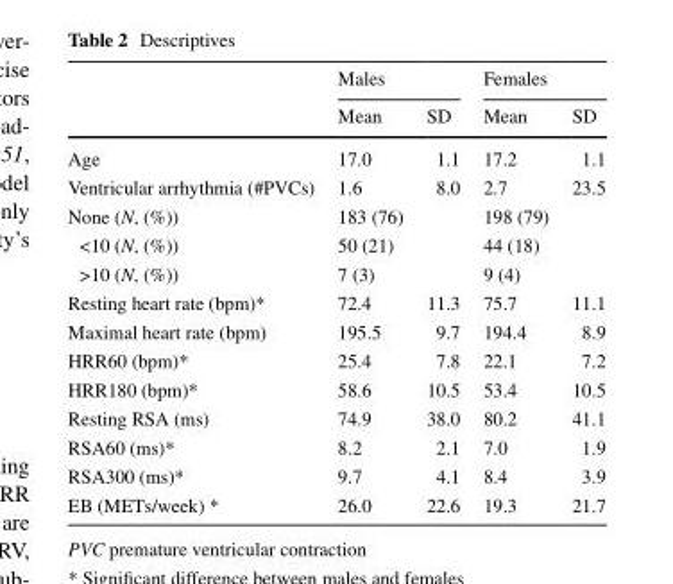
<table><thead><tr><td rowspan="2"></td><td colspan="2">Males</td><td colspan="2">Females</td></tr><tr><td>Mean</td><td>SD</td><td>Mean</td><td>SD</td></tr></thead><tbody><tr><td>Age</td><td>17.0</td><td>1.1</td><td>17.2</td><td>1.1</td></tr><tr><td>Ventricular arrhythmia (#PVCs)</td><td>1.6</td><td>8.0</td><td>2.7</td><td>23.5</td></tr><tr><td>None (N, (%))</td><td>183 (76)</td><td></td><td>198 (79)</td><td></td></tr><tr><td>&lt;10 (N, (%))</td><td>50 (21)</td><td></td><td>44 (18)</td><td></td></tr><tr><td>&gt;10 (N, (%))</td><td>7 (3)</td><td></td><td>9 (4)</td><td></td></tr><tr><td>Resting heart rate (bpm)*</td><td>72.4</td><td>11.3</td><td>75.7</td><td>11.1</td></tr><tr><td>Maximal heart rate (bpm)</td><td>195.5</td><td>9.7</td><td>194.4</td><td>8.9</td></tr><tr><td>HRR60 (bpm)*</td><td>25.4</td><td>7.8</td><td>22.1</td><td>7.2</td></tr><tr><td>HRR180 (bpm)*</td><td>58.6</td><td>10.5</td><td>53.4</td><td>10.5</td></tr><tr><td>Resting RSA (ms)</td><td>74.9</td><td>38.0</td><td>80.2</td><td>41.1</td></tr><tr><td>RSA60 (ms)*</td><td>8.2</td><td>2.1</td><td>7.0</td><td>1.9</td></tr><tr><td>RSA300 (ms)*</td><td>9.7</td><td>4.1</td><td>8.4</td><td>3.9</td></tr><tr><td>EB (METs/week) *</td><td>26.0</td><td>22.6</td><td>19.3</td><td>21.7</td></tr></tbody></table>